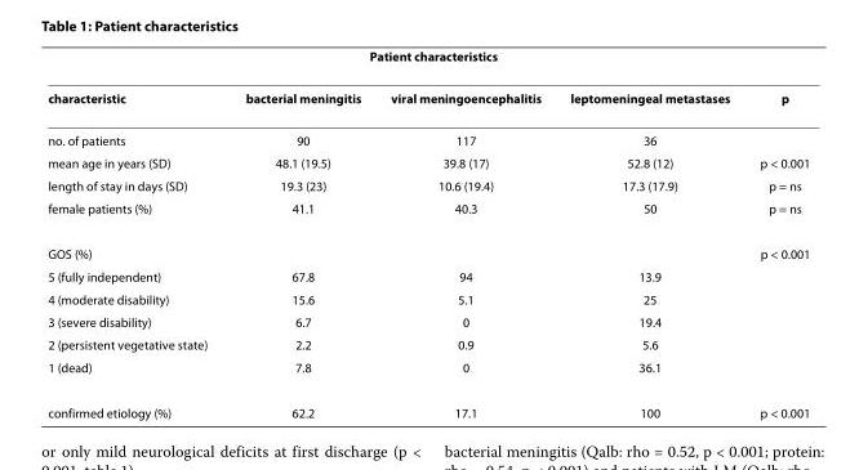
<table><thead><tr><td colspan="5">Patient characteristics</td></tr><tr><td>characteristic</td><td>bacterial meningitis</td><td>viral meningoencephalitis</td><td>leptomeningeal metastases</td><td>p</td></tr></thead><tbody><tr><td>no. of patients</td><td>90</td><td>117</td><td>36</td><td></td></tr><tr><td>mean age in years (SD)</td><td>48.1 (19.5)</td><td>39.8 (17)</td><td>52.8 (12)</td><td>p &lt; 0.001</td></tr><tr><td>length of stay in days (SD)</td><td>19.3 (23)</td><td>10.6 (19.4)</td><td>17.3 (17.9)</td><td>p = ns</td></tr><tr><td>female patients (%)</td><td>41.1</td><td>40.3</td><td>50</td><td>p = ns</td></tr><tr><td>GOS (%)</td><td></td><td></td><td></td><td>p &lt; 0.001</td></tr><tr><td>5 (fully independent)</td><td>67.8</td><td>94</td><td>13.9</td><td></td></tr><tr><td>4 (moderate disability)</td><td>15.6</td><td>5.1</td><td>25</td><td></td></tr><tr><td>3 (severe disability)</td><td>6.7</td><td>0</td><td>19.4</td><td></td></tr><tr><td>2 (persistent vegetative state)</td><td>2.2</td><td>0.9</td><td>5.6</td><td></td></tr><tr><td>1 (dead)</td><td>7.8</td><td>0</td><td>36.1</td><td></td></tr><tr><td>confirmed etiology (%)</td><td>62.2</td><td>17.1</td><td>100</td><td>p &lt; 0.001</td></tr></tbody></table>